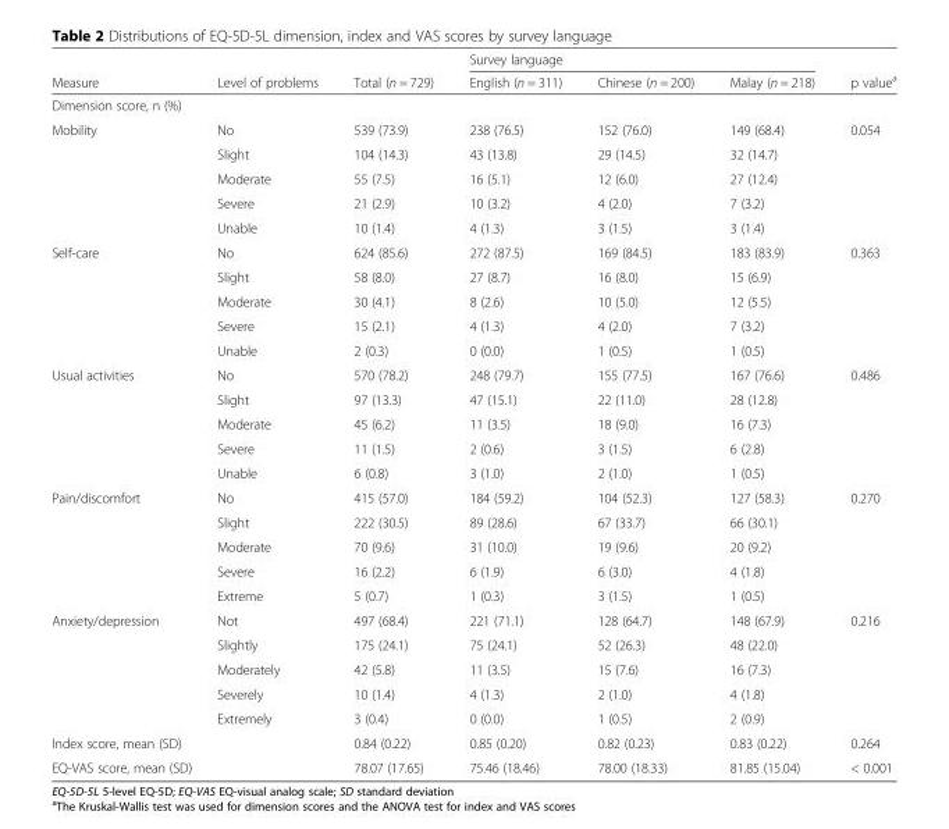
<table><thead><tr><td rowspan="2">Measure</td><td rowspan="2">Level of problems</td><td rowspan="2">Total (n = 729)</td><td colspan="3">Survey language</td><td rowspan="2">p value<sup>a</sup></td></tr><tr><td>English (n = 311)</td><td>Chinese (n = 200)</td><td>Malay (n = 218)</td></tr></thead><tbody><tr><td colspan="7">Dimension score, n (%)</td></tr><tr><td rowspan="5">Mobility</td><td>No</td><td>539 (73.9)</td><td>238 (76.5)</td><td>152 (76.0)</td><td>149 (68.4)</td><td>0.054</td></tr><tr><td>Slight</td><td>104 (14.3)</td><td>43 (13.8)</td><td>29 (14.5)</td><td>32 (14.7)</td><td></td></tr><tr><td>Moderate</td><td>55 (7.5)</td><td>16 (5.1)</td><td>12 (6.0)</td><td>27 (12.4)</td><td></td></tr><tr><td>Severe</td><td>21 (2.9)</td><td>10 (3.2)</td><td>4 (2.0)</td><td>7 (3.2)</td><td></td></tr><tr><td>Unable</td><td>10 (1.4)</td><td>4 (1.3)</td><td>3 (1.5)</td><td>3 (1.4)</td><td></td></tr><tr><td rowspan="5">Self-care</td><td>No</td><td>624 (85.6)</td><td>272 (87.5)</td><td>169 (84.5)</td><td>183 (83.9)</td><td>0.363</td></tr><tr><td>Slight</td><td>58 (8.0)</td><td>27 (8.7)</td><td>16 (8.0)</td><td>15 (6.9)</td><td></td></tr><tr><td>Moderate</td><td>30 (4.1)</td><td>8 (2.6)</td><td>10 (5.0)</td><td>12 (5.5)</td><td></td></tr><tr><td>Severe</td><td>15 (2.1)</td><td>4 (1.3)</td><td>4 (2.0)</td><td>7 (3.2)</td><td></td></tr><tr><td>Unable</td><td>2 (0.3)</td><td>0 (0.0)</td><td>1 (0.5)</td><td>1 (0.5)</td><td></td></tr><tr><td rowspan="5">Usual activities</td><td>No</td><td>570 (78.2)</td><td>248 (79.7)</td><td>155 (77.5)</td><td>167 (76.6)</td><td>0.486</td></tr><tr><td>Slight</td><td>97 (13.3)</td><td>47 (15.1)</td><td>22 (11.0)</td><td>28 (12.8)</td><td></td></tr><tr><td>Moderate</td><td>45 (6.2)</td><td>11 (3.5)</td><td>18 (9.0)</td><td>16 (7.3)</td><td></td></tr><tr><td>Severe</td><td>11 (1.5)</td><td>2 (0.6)</td><td>3 (1.5)</td><td>6 (2.8)</td><td></td></tr><tr><td>Unable</td><td>6 (0.8)</td><td>3 (1.0)</td><td>2 (1.0)</td><td>1 (0.5)</td><td></td></tr><tr><td rowspan="5">Pain/discomfort</td><td>No</td><td>415 (57.0)</td><td>184 (59.2)</td><td>104 (52.3)</td><td>127 (58.3)</td><td>0.270</td></tr><tr><td>Slight</td><td>222 (30.5)</td><td>89 (28.6)</td><td>67 (33.7)</td><td>66 (30.1)</td><td></td></tr><tr><td>Moderate</td><td>70 (9.6)</td><td>31 (10.0)</td><td>19 (9.6)</td><td>20 (9.2)</td><td></td></tr><tr><td>Severe</td><td>16 (2.2)</td><td>6 (1.9)</td><td>6 (3.0)</td><td>4 (1.8)</td><td></td></tr><tr><td>Extreme</td><td>5 (0.7)</td><td>1 (0.3)</td><td>3 (1.5)</td><td>1 (0.5)</td><td></td></tr><tr><td rowspan="5">Anxiety/depression</td><td>Not</td><td>497 (68.4)</td><td>221 (71.1)</td><td>128 (64.7)</td><td>148 (67.9)</td><td>0.216</td></tr><tr><td>Slightly</td><td>175 (24.1)</td><td>75 (24.1)</td><td>52 (26.3)</td><td>48 (22.0)</td><td></td></tr><tr><td>Moderately</td><td>42 (5.8)</td><td>11 (3.5)</td><td>15 (7.6)</td><td>16 (7.3)</td><td></td></tr><tr><td>Severely</td><td>10 (1.4)</td><td>4 (1.3)</td><td>2 (1.0)</td><td>4 (1.8)</td><td></td></tr><tr><td>Extremely</td><td>3 (0.4)</td><td>0 (0.0)</td><td>1 (0.5)</td><td>2 (0.9)</td><td></td></tr><tr><td colspan="2">Index score, mean (SD)</td><td>0.84 (0.22)</td><td>0.85 (0.20)</td><td>0.82 (0.23)</td><td>0.83 (0.22)</td><td>0.264</td></tr><tr><td colspan="2">EQ-VAS score, mean (SD)</td><td>78.07 (17.65)</td><td>75.46 (18.46)</td><td>78.00 (18.33)</td><td>81.85 (15.04)</td><td>&lt; 0.001</td></tr></tbody></table>